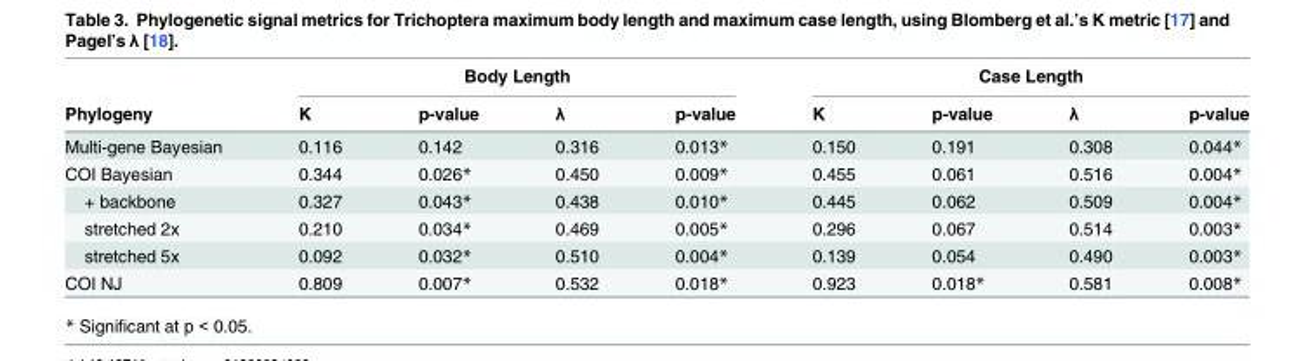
<table><thead><tr><td rowspan="2">Phylogeny</td><td colspan="4">Body Length</td><td colspan="4">Case Length</td></tr><tr><td>K</td><td>p-value</td><td>λ</td><td>p-value</td><td>K</td><td>p-value</td><td>λ</td><td>p-value</td></tr></thead><tbody><tr><td>Multi-gene Bayesian</td><td>0.116</td><td>0.142</td><td>0.316</td><td>0.013*</td><td>0.150</td><td>0.191</td><td>0.308</td><td>0.044*</td></tr><tr><td>COI Bayesian</td><td>0.344</td><td>0.026*</td><td>0.450</td><td>0.009*</td><td>0.455</td><td>0.061</td><td>0.516</td><td>0.004*</td></tr><tr><td>+ backbone</td><td>0.327</td><td>0.043*</td><td>0.438</td><td>0.010*</td><td>0.445</td><td>0.062</td><td>0.509</td><td>0.004*</td></tr><tr><td>stretched 2x</td><td>0.210</td><td>0.034*</td><td>0.469</td><td>0.005*</td><td>0.296</td><td>0.067</td><td>0.514</td><td>0.003*</td></tr><tr><td>stretched 5x</td><td>0.092</td><td>0.032*</td><td>0.510</td><td>0.004*</td><td>0.139</td><td>0.054</td><td>0.490</td><td>0.003*</td></tr><tr><td>COI NJ</td><td>0.809</td><td>0.007*</td><td>0.532</td><td>0.018*</td><td>0.923</td><td>0.018*</td><td>0.581</td><td>0.008*</td></tr></tbody></table>